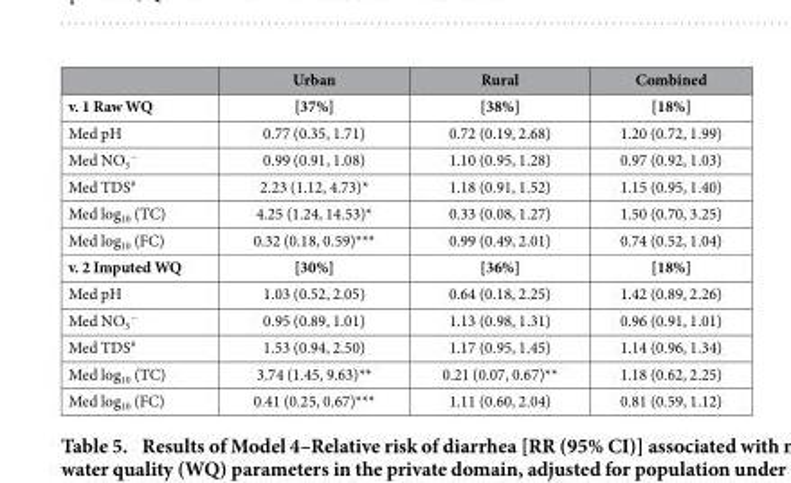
<table><thead><tr><td></td><td>Urban</td><td>Rural</td><td>Combined</td></tr></thead><tbody><tr><td>v. 1 Raw WQ</td><td>[37%]</td><td>[38%]</td><td>[18%]</td></tr><tr><td>Med pH</td><td>0.77 (0.35, 1.71)</td><td>0.72 (0.19, 2.68)</td><td>1.20 (0.72, 1.99)</td></tr><tr><td>Med NO<sub>3</sub> <sup>−</sup></td><td>0.99 (0.91, 1.08)</td><td>1.10 (0.95, 1.28)</td><td>0.97 (0.92, 1.03)</td></tr><tr><td>Med TDS#</td><td>2.23 (1.12, 4.73)*</td><td>1.18 (0.91, 1.52)</td><td>1.15 (0.95, 1.40)</td></tr><tr><td>Med log<sub>10</sub> (TC)</td><td>4.25 (1.24, 14.53)*</td><td>0.33 (0.08, 1.27)</td><td>1.50 (0.70, 3.25)</td></tr><tr><td>Med log<sub>10</sub> (FC)</td><td>0.32 (0.18, 0.59)***</td><td>0.99 (0.49, 2.01)</td><td>0.74 (0.52, 1.04)</td></tr><tr><td>v. 2 Imputed WQ</td><td>[30%]</td><td>[36%]</td><td>[18%]</td></tr><tr><td>Med pH</td><td>1.03 (0.52, 2.05)</td><td>0.64 (0.18, 2.25)</td><td>1.42 (0.89, 2.26)</td></tr><tr><td>Med NO<sub>3</sub> <sup>−</sup></td><td>0.95 (0.89, 1.01)</td><td>1.13 (0.98, 1.31)</td><td>0.96 (0.91, 1.01)</td></tr><tr><td>Med TDS<sup>#</sup></td><td>1.53 (0.94, 2.50)</td><td>1.17 (0.95, 1.45)</td><td>1.14 (0.96, 1.34)</td></tr><tr><td>Med log<sub>10</sub> (TC)</td><td>3.74 (1.45, 9.63)**</td><td>0.21 (0.07, 0.67)**</td><td>1.18 (0.62, 2.25)</td></tr><tr><td>Med log<sub>10</sub> (FC)</td><td>0.41 (0.25, 0.67)***</td><td>1.11 (0.60, 2.04)</td><td>0.81 (0.59, 1.12)</td></tr></tbody></table>